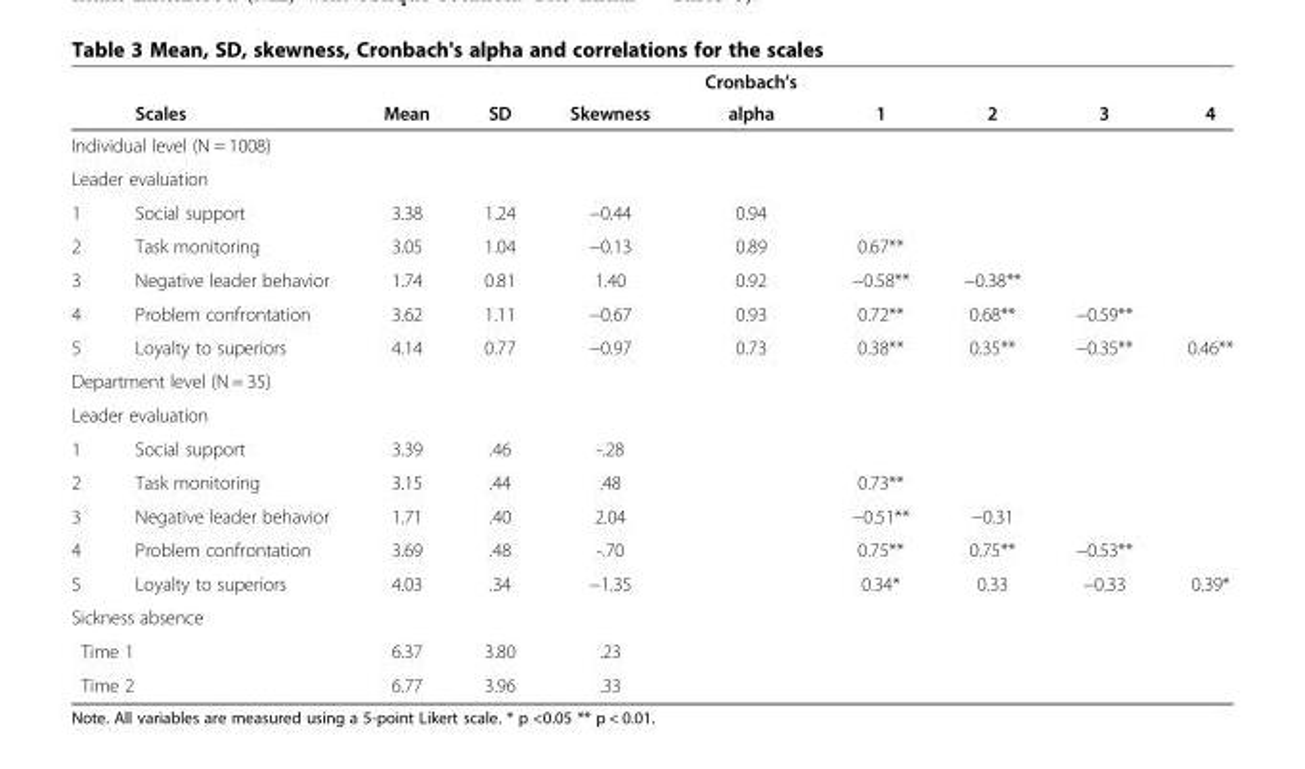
<table><thead><tr><td rowspan="2"></td><td rowspan="2">Scales</td><td rowspan="2">Mean</td><td rowspan="2">SD</td><td rowspan="2">Skewness</td><td rowspan="2">Cronbach’s alpha</td><td rowspan="2">1</td><td rowspan="2">2</td><td rowspan="2">3</td><td rowspan="2">4</td></tr><tr></tr></thead><tbody><tr><td colspan="10">Individual level (N = 1008)</td></tr><tr><td colspan="10">Leader evaluation</td></tr><tr><td>1</td><td>Social support</td><td>3.38</td><td>1.24</td><td>−0.44</td><td>0.94</td><td></td><td></td><td></td><td></td></tr><tr><td>2</td><td>Task monitoring</td><td>3.05</td><td>1.04</td><td>−0.13</td><td>0.89</td><td>0.67**</td><td></td><td></td><td></td></tr><tr><td>3</td><td>Negative leader behavior</td><td>1.74</td><td>0.81</td><td>1.40</td><td>0.92</td><td>−0.58**</td><td>−0.38**</td><td></td><td></td></tr><tr><td>4</td><td>Problem confrontation</td><td>3.62</td><td>1.11</td><td>−0.67</td><td>0.93</td><td>0.72**</td><td>0.68**</td><td>−0.59**</td><td></td></tr><tr><td>5</td><td>Loyalty to superiors</td><td>4.14</td><td>0.77</td><td>−0.97</td><td>0.73</td><td>0.38**</td><td>0.35**</td><td>−0.35**</td><td>0.46**</td></tr><tr><td colspan="10">Department level (N = 35)</td></tr><tr><td colspan="10">Leader evaluation</td></tr><tr><td>1</td><td>Social support</td><td>3.39</td><td>.46</td><td>-.28</td><td></td><td></td><td></td><td></td><td></td></tr><tr><td>2</td><td>Task monitoring</td><td>3.15</td><td>.44</td><td>.48</td><td></td><td>0.73**</td><td></td><td></td><td></td></tr><tr><td>3</td><td>Negative leader behavior</td><td>1.71</td><td>.40</td><td>2.04</td><td></td><td>−0.51**</td><td>−0.31</td><td></td><td></td></tr><tr><td>4</td><td>Problem confrontation</td><td>3.69</td><td>.48</td><td>-.70</td><td></td><td>0.75**</td><td>0.75**</td><td>−0.53**</td><td></td></tr><tr><td>5</td><td>Loyalty to superiors</td><td>4.03</td><td>.34</td><td>−1.35</td><td></td><td>0.34*</td><td>0.33</td><td>−0.33</td><td>0.39*</td></tr><tr><td colspan="10">Sickness absence</td></tr><tr><td colspan="2">Time 1</td><td>6.37</td><td>3.80</td><td>.23</td><td></td><td></td><td></td><td></td><td></td></tr><tr><td colspan="2">Time 2</td><td>6.77</td><td>3.96</td><td>.33</td><td></td><td></td><td></td><td></td><td></td></tr></tbody></table>